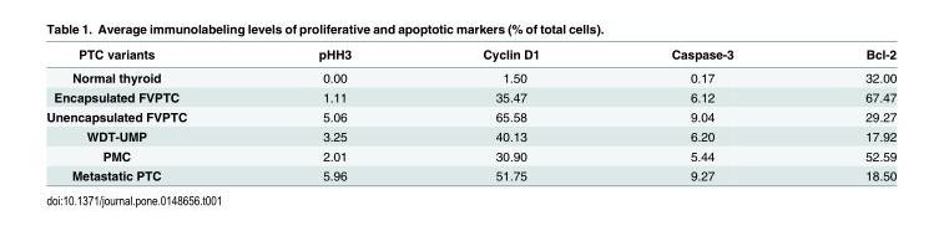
<table><thead><tr><td>PTC variants</td><td>pHH3</td><td>Cyclin D1</td><td>Caspase-3</td><td>Bcl-2</td></tr></thead><tbody><tr><td>Normal thyroid</td><td>0.00</td><td>1.50</td><td>0.17</td><td>32.00</td></tr><tr><td>Encapsulated FVPTC</td><td>1.11</td><td>35.47</td><td>6.12</td><td>67.47</td></tr><tr><td>Unencapsulated FVPTC</td><td>5.06</td><td>65.58</td><td>9.04</td><td>29.27</td></tr><tr><td>WDT-UMP</td><td>3.25</td><td>40.13</td><td>6.20</td><td>17.92</td></tr><tr><td>PMC</td><td>2.01</td><td>30.90</td><td>5.44</td><td>52.59</td></tr><tr><td>Metastatic PTC</td><td>5.96</td><td>51.75</td><td>9.27</td><td>18.50</td></tr></tbody></table>